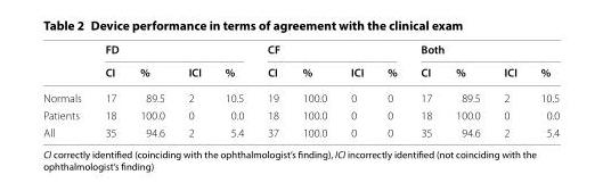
<table><thead><tr><td rowspan="2"></td><td colspan="4">FD</td><td colspan="4">CF</td><td colspan="4">Both</td></tr><tr><td>CI</td><td>%</td><td>ICI</td><td>%</td><td>CI</td><td>%</td><td>ICI</td><td>%</td><td>CI</td><td>%</td><td>ICI</td><td>%</td></tr></thead><tbody><tr><td>Normals</td><td>17</td><td>89.5</td><td>2</td><td>10.5</td><td>19</td><td>100.0</td><td>0</td><td>0</td><td>17</td><td>89.5</td><td>2</td><td>10.5</td></tr><tr><td>Patients</td><td>18</td><td>100.0</td><td>0</td><td>0.0</td><td>18</td><td>100.0</td><td>0</td><td>0</td><td>18</td><td>100.0</td><td>0</td><td>0.0</td></tr><tr><td>All</td><td>35</td><td>94.6</td><td>2</td><td>5.4</td><td>37</td><td>100.0</td><td>0</td><td>0</td><td>35</td><td>94.6</td><td>2</td><td>5.4</td></tr></tbody></table>